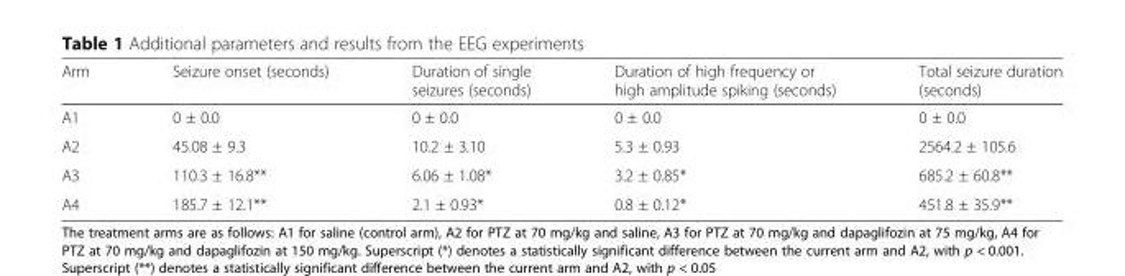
<table><thead><tr><td>Arm</td><td>Seizure onset (seconds)</td><td>Duration of single seizures (seconds)</td><td>Duration of high frequency or high amplitude spiking (seconds)</td><td>Total seizure duration (seconds)</td></tr></thead><tbody><tr><td>A1</td><td>0 ± 0.0</td><td>0 ± 0.0</td><td>0 ± 0.0</td><td>0 ± 0.0</td></tr><tr><td>A2</td><td>45.08 ± 9.3</td><td>10.2 ± 3.10</td><td>5.3 ± 0.93</td><td>2564.2 ± 105.6</td></tr><tr><td>A3</td><td>110.3 ± 16.8**</td><td>6.06 ± 1.08*</td><td>3.2 ± 0.85*</td><td>685.2 ± 60.8**</td></tr><tr><td>A4</td><td>185.7 ± 12.1**</td><td>2.1 ± 0.93*</td><td>0.8 ± 0.12*</td><td>451.8 ± 35.9**</td></tr></tbody></table>